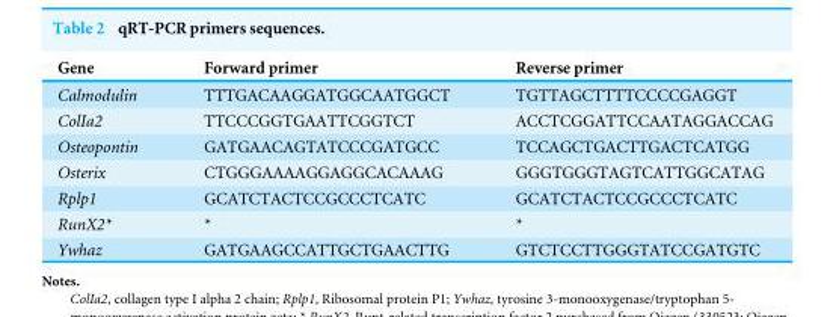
<table><thead><tr><td>Gene</td><td>Forward primer</td><td>Reverse primer</td></tr></thead><tbody><tr><td>Calmodulin</td><td>TTTGACAAGGATGGCAATGGCT</td><td>TGTTAGCTTTTCCCCGAGGT</td></tr><tr><td>ColIa2</td><td>TTCCCGGTGAATTCGGTCT</td><td>ACCTCGGATTCCAATAGGACCAG</td></tr><tr><td>Osteopontin</td><td>GATGAACAGTATCCCGATGCC</td><td>TCCAGCTGACTTGACTCATGG</td></tr><tr><td>Osterix</td><td>CTGGGAAAAGGAGGCACAAAG</td><td>GGGTGGGTAGTCATTGGCATAG</td></tr><tr><td>Rplp1</td><td>GCATCTACTCCGCCCTCATC</td><td>GCATCTACTCCGCCCTCATC</td></tr><tr><td>RunX2*</td><td>*</td><td>*</td></tr><tr><td>Ywhaz</td><td>GATGAAGCCATTGCTGAACTTG</td><td>GTCTCCTTGGGTATCCGATGTC</td></tr></tbody></table>